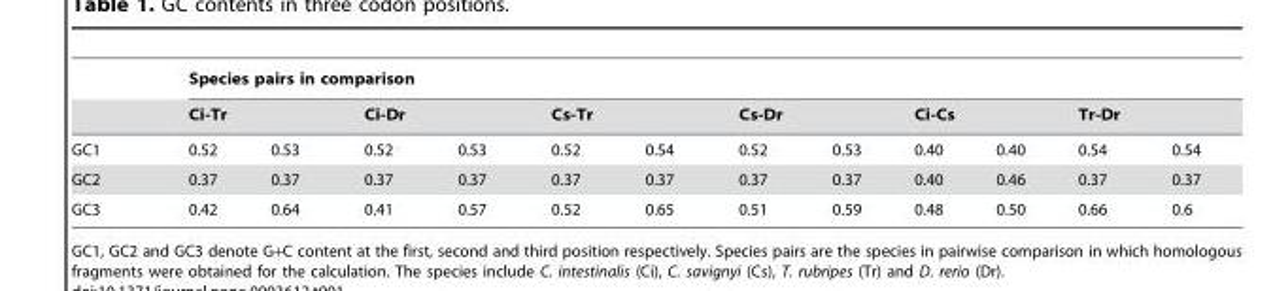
<table><thead><tr><td rowspan="3">GC1</td><td colspan="12">Species pairs in comparison</td></tr><tr><td colspan="2">Ci-Tr</td><td colspan="2">Ci-Dr</td><td colspan="2">Cs-Tr</td><td colspan="2">Cs-Dr</td><td colspan="2">Ci-Cs</td><td colspan="2">Tr-Dr</td></tr><tr><td>0.52</td><td>0.53</td><td>0.52</td><td>0.53</td><td>0.52</td><td>0.54</td><td>0.52</td><td>0.53</td><td>0.40</td><td>0.40</td><td>0.54</td><td>0.54</td></tr></thead><tbody><tr><td>GC2</td><td>0.37</td><td>0.37</td><td>0.37</td><td>0.37</td><td>0.37</td><td>0.37</td><td>0.37</td><td>0.37</td><td>0.40</td><td>0.46</td><td>0.37</td><td>0.37</td></tr><tr><td>GC3</td><td>0.42</td><td>0.64</td><td>0.41</td><td>0.57</td><td>0.52</td><td>0.65</td><td>0.51</td><td>0.59</td><td>0.48</td><td>0.50</td><td>0.66</td><td>0.6</td></tr></tbody></table>